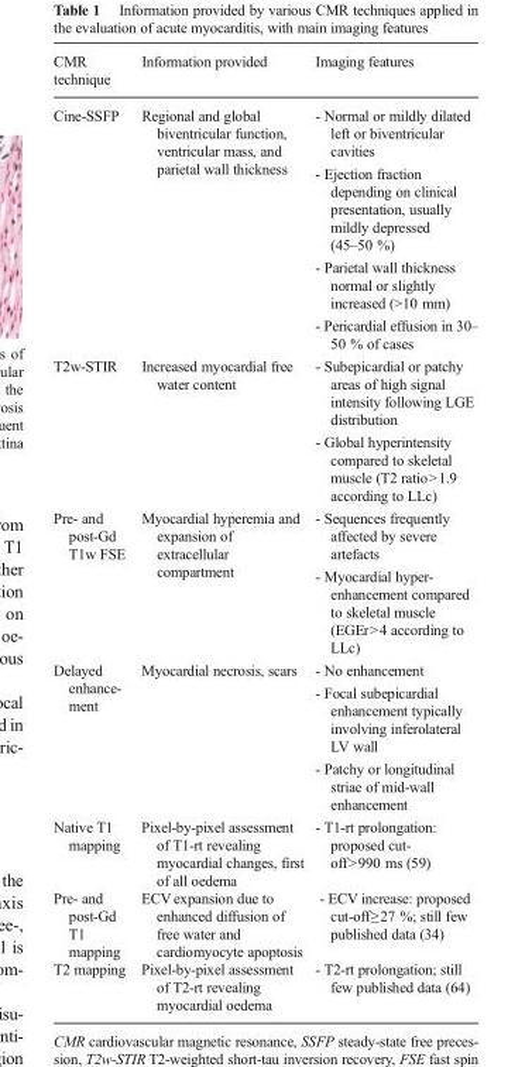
<table><thead><tr><td>CMR technique</td><td>Information provided</td><td>Imaging features</td></tr></thead><tbody><tr><td rowspan="4">Cine-SSFP</td><td rowspan="4">Regional and global biventricular function, ventricular mass, and parietal wall thickness</td><td>- Normal or mildly dilated left or biventricular cavities</td></tr><tr><td>- Ejection fraction depending on clinical presentation, usually mildly depressed (45–50 %)</td></tr><tr><td>- Parietal wall thickness normal or slightly increased (&gt;10 mm)</td></tr><tr><td>- Pericardial effusion in 30– 50 % of cases</td></tr><tr><td rowspan="2">T2w-STIR</td><td rowspan="2">Increased myocardial free water content</td><td>- Subepicardial or patchy areas of high signal intensity following LGE distribution</td></tr><tr><td>- Global hyperintensity compared to skeletal muscle (T2 ratio&gt;1.9 according to LLc)</td></tr><tr><td rowspan="2">Pre- and post-Gd T1w FSE</td><td rowspan="2">Myocardial hyperemia and expansion of extracellular compartment</td><td>- Sequences frequently affected by severe artefacts</td></tr><tr><td>- Myocardial hyper- enhancement compared to skeletal muscle (EGEr&gt;4 according to LLc)</td></tr><tr><td rowspan="3">Delayed enhance- ment</td><td rowspan="3">Myocardial necrosis, scars</td><td>- No enhancement</td></tr><tr><td>- Focal subepicardial enhancement typically involving inferolateral LV wall</td></tr><tr><td>- Patchy or longitudinal striae of mid-wall enhancement</td></tr><tr><td>Native T1 mapping</td><td>Pixel-by-pixel assessment of T1-rt revealing myocardial changes, first of all oedema</td><td>- T1-rt prolongation: proposed cut- off&gt;990 ms (59)</td></tr><tr><td>Pre- and post-Gd T1 mapping</td><td>ECV expansion due to enhanced diffusion of free water and cardiomyocyte apoptosis</td><td>- ECV increase: proposed cut-off≥27 %; still few published data (34)</td></tr><tr><td>T2 mapping</td><td>Pixel-by-pixel assessment of T2-rt revealing myocardial oedema</td><td>- T2-rt prolongation; still few published data (64)</td></tr></tbody></table>